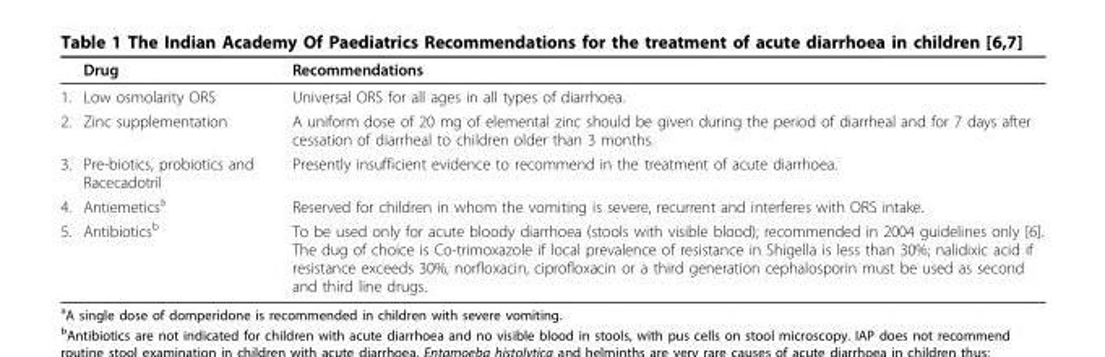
<table><thead><tr><td></td><td>Drug</td><td>Recommendations</td></tr></thead><tbody><tr><td>1.</td><td>Low osmolarity ORS</td><td>Universal ORS for all ages in all types of diarrhoea.</td></tr><tr><td>2.</td><td>Zinc supplementation</td><td>A uniform dose of 20 mg of elemental zinc should be given during the period of diarrheal and for 7 days after cessation of diarrheal to children older than 3 months.</td></tr><tr><td>3.</td><td>Pre-biotics, probiotics and Racecadotril</td><td>Presently insufficient evidence to recommend in the treatment of acute diarrhoea.</td></tr><tr><td>4.</td><td>Antiemetics<sup>a</sup></td><td>Reserved for children in whom the vomiting is severe, recurrent and interferes with ORS intake.</td></tr><tr><td>5.</td><td>Antibiotics<sup>b</sup></td><td>To be used only for acute bloody diarrhoea (stools with visible blood); recommended in 2004 guidelines only [6]. The dug of choice is Co-trimoxazole if local prevalence of resistance in Shigella is less than 30%; nalidixic acid if resistance exceeds 30%, norfloxacin, ciprofloxacin or a third generation cephalosporin must be used as second and third line drugs.</td></tr></tbody></table>